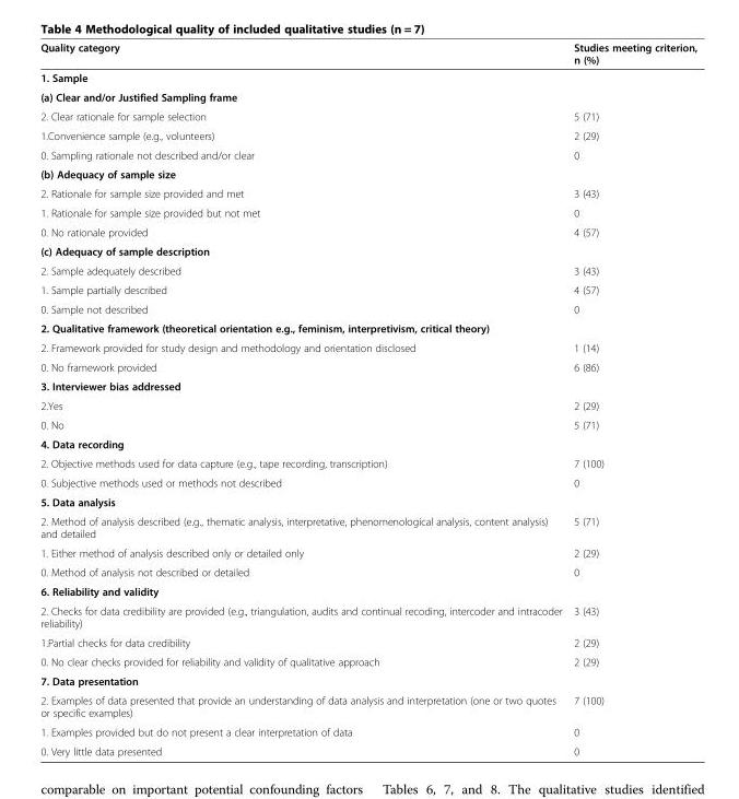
<table><thead><tr><td>Quality category</td><td>Studies meeting criterion, n (%)</td></tr></thead><tbody><tr><td colspan="2">1. Sample</td></tr><tr><td colspan="2">(a) Clear and/or Justified Sampling frame</td></tr><tr><td>2. Clear rationale for sample selection</td><td>5 (71)</td></tr><tr><td>1.Convenience sample (e.g., volunteers)</td><td>2 (29)</td></tr><tr><td>0. Sampling rationale not described and/or clear</td><td>0</td></tr><tr><td colspan="2">(b) Adequacy of sample size</td></tr><tr><td>2. Rationale for sample size provided and met</td><td>3 (43)</td></tr><tr><td>1. Rationale for sample size provided but not met</td><td>0</td></tr><tr><td>0. No rationale provided</td><td>4 (57)</td></tr><tr><td colspan="2">(c) Adequacy of sample description</td></tr><tr><td>2. Sample adequately described</td><td>3 (43)</td></tr><tr><td>1. Sample partially described</td><td>4 (57)</td></tr><tr><td>0. Sample not described</td><td>0</td></tr><tr><td colspan="2">2. Qualitative framework (theoretical orientation e.g., feminism, interpretivism, critical theory)</td></tr><tr><td>2. Framework provided for study design and methodology and orientation disclosed</td><td>1 (14)</td></tr><tr><td>0. No framework provided</td><td>6 (86)</td></tr><tr><td colspan="2">3. Interviewer bias addressed</td></tr><tr><td>2.Yes</td><td>2 (29)</td></tr><tr><td>0. No</td><td>5 (71)</td></tr><tr><td colspan="2">4. Data recording</td></tr><tr><td>2. Objective methods used for data capture (e.g., tape recording, transcription)</td><td>7 (100)</td></tr><tr><td>0. Subjective methods used or methods not described</td><td>0</td></tr><tr><td colspan="2">5. Data analysis</td></tr><tr><td>2. Method of analysis described (e.g., thematic analysis, interpretative, phenomenological analysis, content analysis) and detailed</td><td>5 (71)</td></tr><tr><td>1. Either method of analysis described only or detailed only</td><td>2 (29)</td></tr><tr><td>0. Method of analysis not described or detailed</td><td>0</td></tr><tr><td colspan="2">6. Reliability and validity</td></tr><tr><td>2. Checks for data credibility are provided (e.g., triangulation, audits and continual recoding, intercoder and intracoder reliability)</td><td>3 (43)</td></tr><tr><td>1.Partial checks for data credibility</td><td>2 (29)</td></tr><tr><td>0. No clear checks provided for reliability and validity of qualitative approach</td><td>2 (29)</td></tr><tr><td colspan="2">7. Data presentation</td></tr><tr><td>2. Examples of data presented that provide an understanding of data analysis and interpretation (one or two quotes or specific examples)</td><td>7 (100)</td></tr><tr><td>1. Examples provided but do not present a clear interpretation of data</td><td>0</td></tr><tr><td>0. Very little data presented</td><td>0</td></tr></tbody></table>